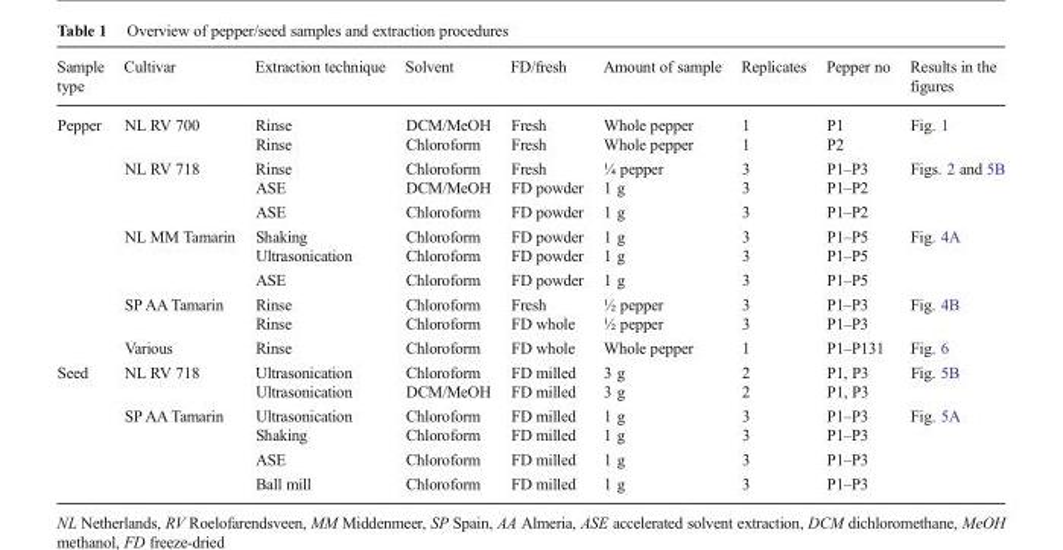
<table><thead><tr><td>Sample type</td><td>Cultivar</td><td>Extraction technique</td><td>Solvent</td><td>FD/fresh</td><td>Amount of sample</td><td>Replicates</td><td>Pepper no</td><td>Results in the figures</td></tr></thead><tbody><tr><td rowspan="11">Pepper</td><td rowspan="2">NL RV 700</td><td>Rinse</td><td>DCM/MeOH</td><td>Fresh</td><td>Whole pepper</td><td>1</td><td>P1</td><td rowspan="2">Fig. 1</td></tr><tr><td>Rinse</td><td>Chloroform</td><td>Fresh</td><td>Whole pepper</td><td>1</td><td>P2</td></tr><tr><td rowspan="3">NL RV 718</td><td>Rinse</td><td>Chloroform</td><td>Fresh</td><td>¼ pepper</td><td>3</td><td>P1–P3</td><td rowspan="3">Figs. 2 and 5B</td></tr><tr><td>ASE</td><td>DCM/MeOH</td><td>FD powder</td><td>1 g</td><td>3</td><td>P1–P2</td></tr><tr><td>ASE</td><td>Chloroform</td><td>FD powder</td><td>1 g</td><td>3</td><td>P1–P2</td></tr><tr><td rowspan="3">NL MM Tamarin</td><td>Shaking</td><td>Chloroform</td><td>FD powder</td><td>1 g</td><td>3</td><td>P1–P5</td><td rowspan="3">Fig. 4A</td></tr><tr><td>Ultrasonication</td><td>Chloroform</td><td>FD powder</td><td>1 g</td><td>3</td><td>P1–P5</td></tr><tr><td>ASE</td><td>Chloroform</td><td>FD powder</td><td>1 g</td><td>3</td><td>P1–P5</td></tr><tr><td rowspan="2">SP AA Tamarin</td><td>Rinse</td><td>Chloroform</td><td>Fresh</td><td>½ pepper</td><td>3</td><td>P1–P3</td><td rowspan="2">Fig. 4B</td></tr><tr><td>Rinse</td><td>Chloroform</td><td>FD whole</td><td>½ pepper</td><td>3</td><td>P1–P3</td></tr><tr><td>Various</td><td>Rinse</td><td>Chloroform</td><td>FD whole</td><td>Whole pepper</td><td>1</td><td>P1–P131</td><td>Fig. 6</td></tr><tr><td rowspan="6">Seed</td><td rowspan="2">NL RV 718</td><td>Ultrasonication</td><td>Chloroform</td><td>FD milled</td><td>3 g</td><td>2</td><td>P1, P3</td><td rowspan="2">Fig. 5B</td></tr><tr><td>Ultrasonication</td><td>DCM/MeOH</td><td>FD milled</td><td>3 g</td><td>2</td><td>P1, P3</td></tr><tr><td rowspan="4">SP AA Tamarin</td><td>Ultrasonication</td><td>Chloroform</td><td>FD milled</td><td>1 g</td><td>3</td><td>P1–P3</td><td rowspan="4">Fig. 5A</td></tr><tr><td>Shaking</td><td>Chloroform</td><td>FD milled</td><td>1 g</td><td>3</td><td>P1–P3</td></tr><tr><td>ASE</td><td>Chloroform</td><td>FD milled</td><td>1 g</td><td>3</td><td>P1–P3</td></tr><tr><td>Ball mill</td><td>Chloroform</td><td>FD milled</td><td>1 g</td><td>3</td><td>P1–P3</td></tr></tbody></table>